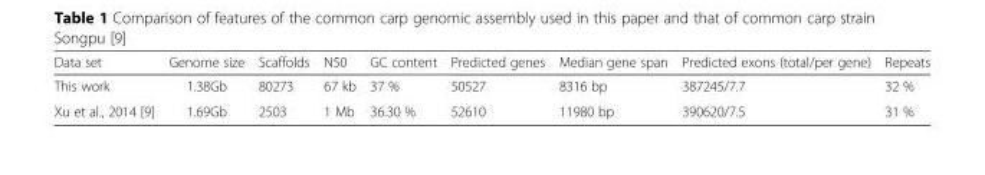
<table><thead><tr><td>Data set</td><td>Genome size</td><td>Scaffolds</td><td>N50</td><td>GC content</td><td>Predicted genes</td><td>Median gene span</td><td>Predicted exons (total/per gene)</td><td>Repeats</td></tr></thead><tbody><tr><td>This work</td><td>1.38Gb</td><td>80273</td><td>67 kb</td><td>37 %</td><td>50527</td><td>8316 bp</td><td>387245/7.7</td><td>32 %</td></tr><tr><td>Xu et al., 2014 [9]</td><td>1.69Gb</td><td>2503</td><td>1 Mb</td><td>36.30 %</td><td>52610</td><td>11980 bp</td><td>390620/7.5</td><td>31 %</td></tr></tbody></table>